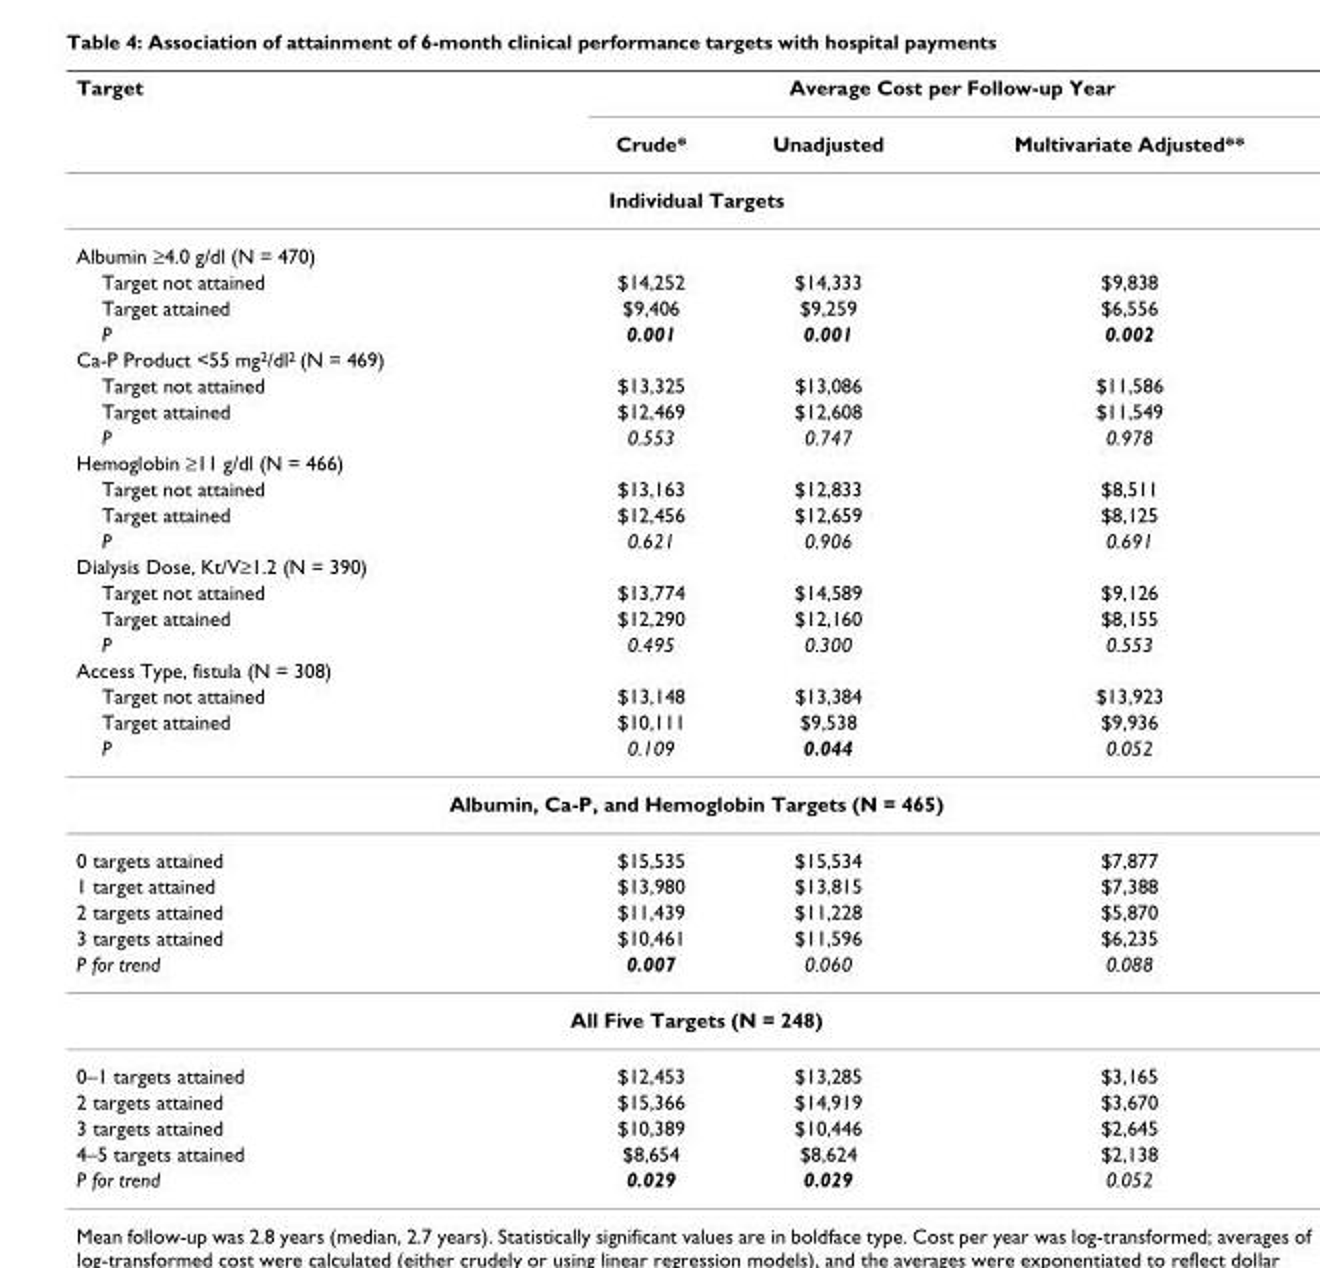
<table><thead><tr><td rowspan="2">Target</td><td colspan="3">Average Cost per Follow-up Year</td></tr><tr><td>Crude*</td><td>Unadjusted</td><td>Multivariate Adjusted**</td></tr></thead><tbody><tr><td colspan="4">Individual Targets</td></tr><tr><td colspan="4">Albumin ≥4.0 g/dl (N = 470)</td></tr><tr><td>Target not attained</td><td>$14,252</td><td>$14,333</td><td>$9,838</td></tr><tr><td>Target attained</td><td>$9,406</td><td>$9,259</td><td>$6,556</td></tr><tr><td>P</td><td>0.001</td><td>0.001</td><td>0.002</td></tr><tr><td colspan="4">Ca-P Product &lt;55 mg<sup>2</sup>/dl<sup>2</sup> (N = 469)</td></tr><tr><td>Target not attained</td><td>$13,325</td><td>$13,086</td><td>$11,586</td></tr><tr><td>Target attained</td><td>$12,469</td><td>$12,608</td><td>$11,549</td></tr><tr><td>P</td><td>0.553</td><td>0.747</td><td>0.978</td></tr><tr><td colspan="4">Hemoglobin ≥11 g/dl (N = 466)</td></tr><tr><td>Target not attained</td><td>$13,163</td><td>$12,833</td><td>$8,511</td></tr><tr><td>Target attained</td><td>$12,456</td><td>$12,659</td><td>$8,125</td></tr><tr><td>P</td><td>0.621</td><td>0.906</td><td>0.691</td></tr><tr><td colspan="4">Dialysis Dose, Kt/V≥1.2 (N = 390)</td></tr><tr><td>Target not attained</td><td>$13,774</td><td>$14,589</td><td>$9,126</td></tr><tr><td>Target attained</td><td>$12,290</td><td>$12,160</td><td>$8,155</td></tr><tr><td>P</td><td>0.495</td><td>0.300</td><td>0.553</td></tr><tr><td colspan="4">Access Type, fistula (N = 308)</td></tr><tr><td>Target not attained</td><td>$13,148</td><td>$13,384</td><td>$13,923</td></tr><tr><td>Target attained</td><td>$10,111</td><td>$9,538</td><td>$9,936</td></tr><tr><td>P</td><td>0.109</td><td>0.044</td><td>0.052</td></tr><tr><td colspan="4">Albumin, Ca-P, and Hemoglobin Targets (N = 465)</td></tr><tr><td>0 targets attained</td><td>$15,535</td><td>$15,534</td><td>$7,877</td></tr><tr><td>1 target attained</td><td>$13,980</td><td>$13,815</td><td>$7,388</td></tr><tr><td>2 targets attained</td><td>$11,439</td><td>$11,228</td><td>$5,870</td></tr><tr><td>3 targets attained</td><td>$10,461</td><td>$11,596</td><td>$6,235</td></tr><tr><td>P for trend</td><td>0.007</td><td>0.060</td><td>0.088</td></tr><tr><td colspan="4">All Five Targets (N = 248)</td></tr><tr><td>0–1 targets attained</td><td>$12,453</td><td>$13,285</td><td>$3,165</td></tr><tr><td>2 targets attained</td><td>$15,366</td><td>$14,919</td><td>$3,670</td></tr><tr><td>3 targets attained</td><td>$10,389</td><td>$10,446</td><td>$2,645</td></tr><tr><td>4–5 targets attained</td><td>$8,654</td><td>$8,624</td><td>$2,138</td></tr><tr><td>P for trend</td><td>0.029</td><td>0.029</td><td>0.052</td></tr></tbody></table>